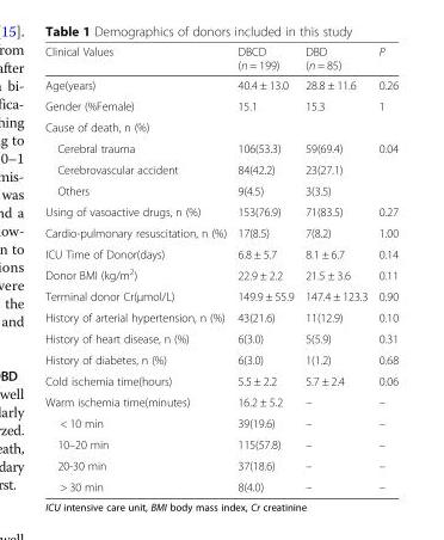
<table><thead><tr><td>Clinical Values</td><td>DBCD (n = 199)</td><td>DBD (n = 85)</td><td>P</td></tr></thead><tbody><tr><td>Age(years)</td><td>40.4 ± 13.0</td><td>28.8 ± 11.6</td><td>0.26</td></tr><tr><td>Gender (%Female)</td><td>15.1</td><td>15.3</td><td>1</td></tr><tr><td colspan="4">Cause of death, n (%)</td></tr><tr><td>Cerebral trauma</td><td>106(53.3)</td><td>59(69.4)</td><td rowspan="3">0.04</td></tr><tr><td>Cerebrovascular accident</td><td>84(42.2)</td><td>23(27.1)</td></tr><tr><td>Others</td><td>9(4.5)</td><td>3(3.5)</td></tr><tr><td>Using of vasoactive drugs, n (%)</td><td>153(76.9)</td><td>71(83.5)</td><td>0.27</td></tr><tr><td>Cardio-pulmonary resuscitation, n (%)</td><td>17(8.5)</td><td>7(8.2)</td><td>1.00</td></tr><tr><td>ICU Time of Donor(days)</td><td>6.8 ± 5.7</td><td>8.1 ± 6.7</td><td>0.14</td></tr><tr><td>Donor BMI (kg/m<sup>2</sup>)</td><td>22.9 ± 2.2</td><td>21.5 ± 3.6</td><td>0.11</td></tr><tr><td>Terminal donor Cr(μmol/L)</td><td>149.9 ± 55.9</td><td>147.4 ± 123.3</td><td>0.90</td></tr><tr><td>History of arterial hypertension, n (%)</td><td>43(21.6)</td><td>11(12.9)</td><td>0.10</td></tr><tr><td>History of heart disease, n (%)</td><td>6(3.0)</td><td>5(5.9)</td><td>0.31</td></tr><tr><td>History of diabetes, n (%)</td><td>6(3.0)</td><td>1(1.2)</td><td>0.68</td></tr><tr><td>Cold ischemia time(hours)</td><td>5.5 ± 2.2</td><td>5.7 ± 2.4</td><td>0.06</td></tr><tr><td>Warm ischemia time(minutes)</td><td>16.2 ± 5.2</td><td>–</td><td>–</td></tr><tr><td>&lt; 10 min</td><td>39(19.6)</td><td>–</td><td>–</td></tr><tr><td>10–20 min</td><td>115(57.8)</td><td>–</td><td>–</td></tr><tr><td>20-30 min</td><td>37(18.6)</td><td>–</td><td>–</td></tr><tr><td>&gt; 30 min</td><td>8(4.0)</td><td>–</td><td>–</td></tr></tbody></table>